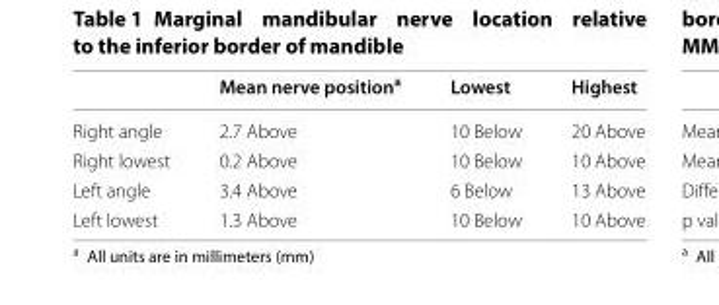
<table><thead><tr><td></td><td>Mean nerve position<sup>a</sup></td><td>Lowest</td><td>Highest</td></tr></thead><tbody><tr><td>Right angle</td><td>2.7 Above</td><td>10 Below</td><td>20 Above</td></tr><tr><td>Right lowest</td><td>0.2 Above</td><td>10 Below</td><td>10 Above</td></tr><tr><td>Left angle</td><td>3.4 Above</td><td>6 Below</td><td>13 Above</td></tr><tr><td>Left lowest</td><td>1.3 Above</td><td>10 Below</td><td>10 Above</td></tr></tbody></table>